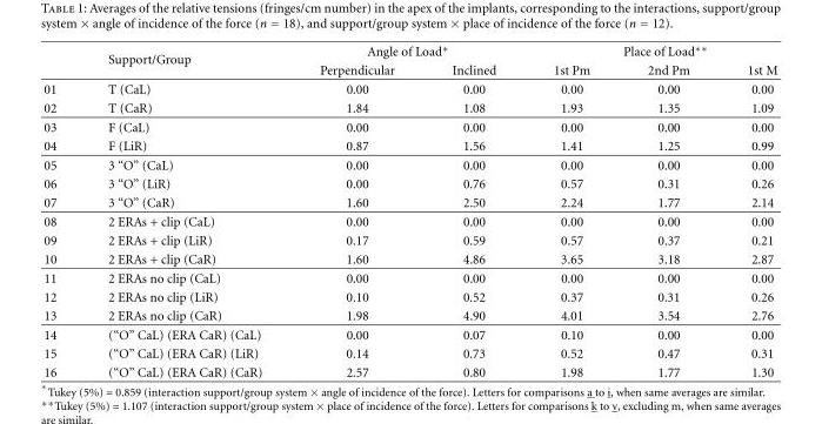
<table><thead><tr><td rowspan="2"></td><td rowspan="2">Support/Group</td><td colspan="2">Angle of Load∗</td><td colspan="3">Place of Load∗∗</td></tr><tr><td>Perpendicular</td><td>Inclined</td><td>1st Pm</td><td>2nd Pm</td><td>1st M</td></tr></thead><tbody><tr><td>01</td><td>T (CaL)</td><td>0.00</td><td>0.00</td><td>0.00</td><td>0.00</td><td>0.00</td></tr><tr><td>02</td><td>T (CaR)</td><td>1.84</td><td>1.08</td><td>1.93</td><td>1.35</td><td>1.09</td></tr><tr><td>03</td><td>F (CaL)</td><td>0.00</td><td>0.00</td><td>0.00</td><td>0.00</td><td>0.00</td></tr><tr><td>04</td><td>F (LiR)</td><td>0.87</td><td>1.56</td><td>1.41</td><td>1.25</td><td>0.99</td></tr><tr><td>05</td><td>3 “O” (CaL)</td><td>0.00</td><td>0.00</td><td>0.00</td><td>0.00</td><td>0.00</td></tr><tr><td>06</td><td>3 “O” (LiR)</td><td>0.00</td><td>0.76</td><td>0.57</td><td>0.31</td><td>0.26</td></tr><tr><td>07</td><td>3 “O” (CaR)</td><td>1.60</td><td>2.50</td><td>2.24</td><td>1.77</td><td>2.14</td></tr><tr><td>08</td><td>2 ERAs + clip (CaL)</td><td>0.00</td><td>0.00</td><td>0.00</td><td>0.00</td><td>0.00</td></tr><tr><td>09</td><td>2 ERAs + clip (LiR)</td><td>0.17</td><td>0.59</td><td>0.57</td><td>0.37</td><td>0.21</td></tr><tr><td>10</td><td>2 ERAs + clip (CaR)</td><td>1.60</td><td>4.86</td><td>3.65</td><td>3.18</td><td>2.87</td></tr><tr><td>11</td><td>2 ERAs no clip (CaL)</td><td>0.00</td><td>0.00</td><td>0.00</td><td>0.00</td><td>0.00</td></tr><tr><td>12</td><td>2 ERAs no clip (LiR)</td><td>0.10</td><td>0.52</td><td>0.37</td><td>0.31</td><td>0.26</td></tr><tr><td>13</td><td>2 ERAs no clip (CaR)</td><td>1.98</td><td>4.90</td><td>4.01</td><td>3.54</td><td>2.76</td></tr><tr><td>14</td><td>(“O” CaL) (ERA CaR) (CaL)</td><td>0.00</td><td>0.07</td><td>0.10</td><td>0.00</td><td>0.00</td></tr><tr><td>15</td><td>(“O” CaL) (ERA CaR) (LiR)</td><td>0.14</td><td>0.73</td><td>0.52</td><td>0.47</td><td>0.31</td></tr><tr><td>16</td><td>(“O” CaL) (ERA CaR) (CaR)</td><td>2.57</td><td>0.80</td><td>1.98</td><td>1.77</td><td>1.30</td></tr></tbody></table>